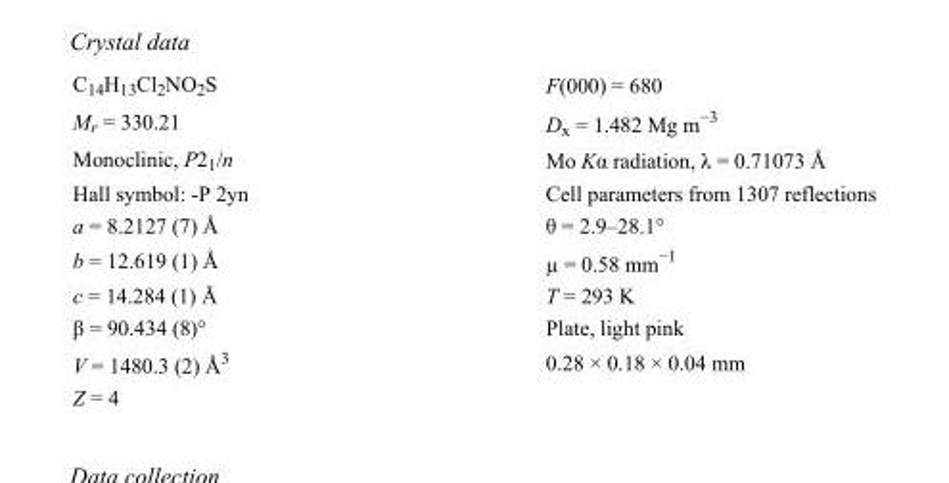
<table><tbody><tr><td>C<sub>14</sub>H<sub>13</sub>Cl<sub>2</sub>NO<sub>2</sub>S</td><td>F(000) = 680</td></tr><tr><td>M<sub>r</sub> = 330.21</td><td>D<sub>x</sub> = 1.482 Mg m<sup>−3</sup></td></tr><tr><td>Monoclinic, P2<sub>1</sub>/n</td><td>Mo Kα radiation, λ = 0.71073 Å</td></tr><tr><td>Hall symbol: -P 2yn</td><td>Cell parameters from 1307 reflections</td></tr><tr><td>a = 8.2127 (7) Å</td><td>θ = 2.9–28.1°</td></tr><tr><td>b = 12.619 (1) Å</td><td>µ = 0.58 mm<sup>−1</sup></td></tr><tr><td>c = 14.284 (1) Å</td><td>T = 293 K</td></tr><tr><td>β = 90.434 (8)°</td><td>Plate, light pink</td></tr><tr><td>V = 1480.3 (2) Å<sup>3</sup></td><td>0.28 × 0.18 × 0.04 mm</td></tr><tr><td>Z = 4</td><td></td></tr></tbody></table>